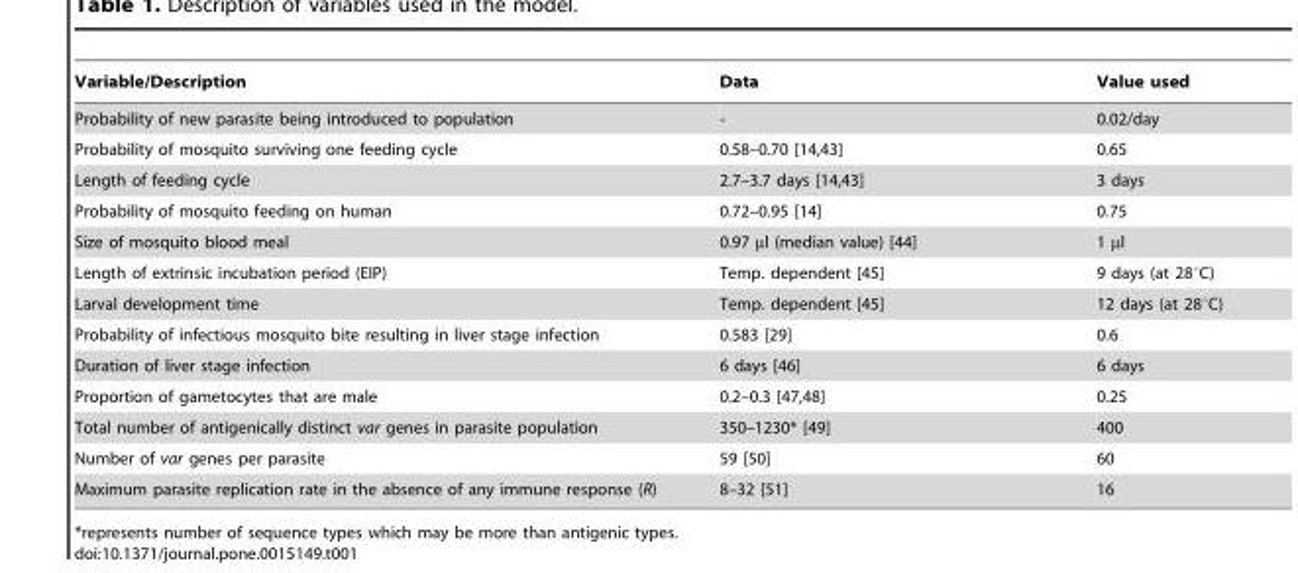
<table><thead><tr><td>Variable/Description</td><td>Data</td><td>Value used</td></tr></thead><tbody><tr><td>Probability of new parasite being introduced to population</td><td>-</td><td>0.02/day</td></tr><tr><td>Probability of mosquito surviving one feeding cycle</td><td>0.58–0.70 [14,43]</td><td>0.65</td></tr><tr><td>Length of feeding cycle</td><td>2.7–3.7 days [14,43]</td><td>3 days</td></tr><tr><td>Probability of mosquito feeding on human</td><td>0.72–0.95 [14]</td><td>0.75</td></tr><tr><td>Size of mosquito blood meal</td><td>0.97 µl (median value) [44]</td><td>1 µl</td></tr><tr><td>Length of extrinsic incubation period (EIP)</td><td>Temp. dependent [45]</td><td>9 days (at 28°C)</td></tr><tr><td>Larval development time</td><td>Temp. dependent [45]</td><td>12 days (at 28°C)</td></tr><tr><td>Probability of infectious mosquito bite resulting in liver stage infection</td><td>0.583 [29]</td><td>0.6</td></tr><tr><td>Duration of liver stage infection</td><td>6 days [46]</td><td>6 days</td></tr><tr><td>Proportion of gametocytes that are male</td><td>0.2–0.3 [47,48]</td><td>0.25</td></tr><tr><td>Total number of antigenically distinct var genes in parasite population</td><td>350–1230* [49]</td><td>400</td></tr><tr><td>Number of var genes per parasite</td><td>59 [50]</td><td>60</td></tr><tr><td>Maximum parasite replication rate in the absence of any immune response (R)</td><td>8–32 [51]</td><td>16</td></tr></tbody></table>